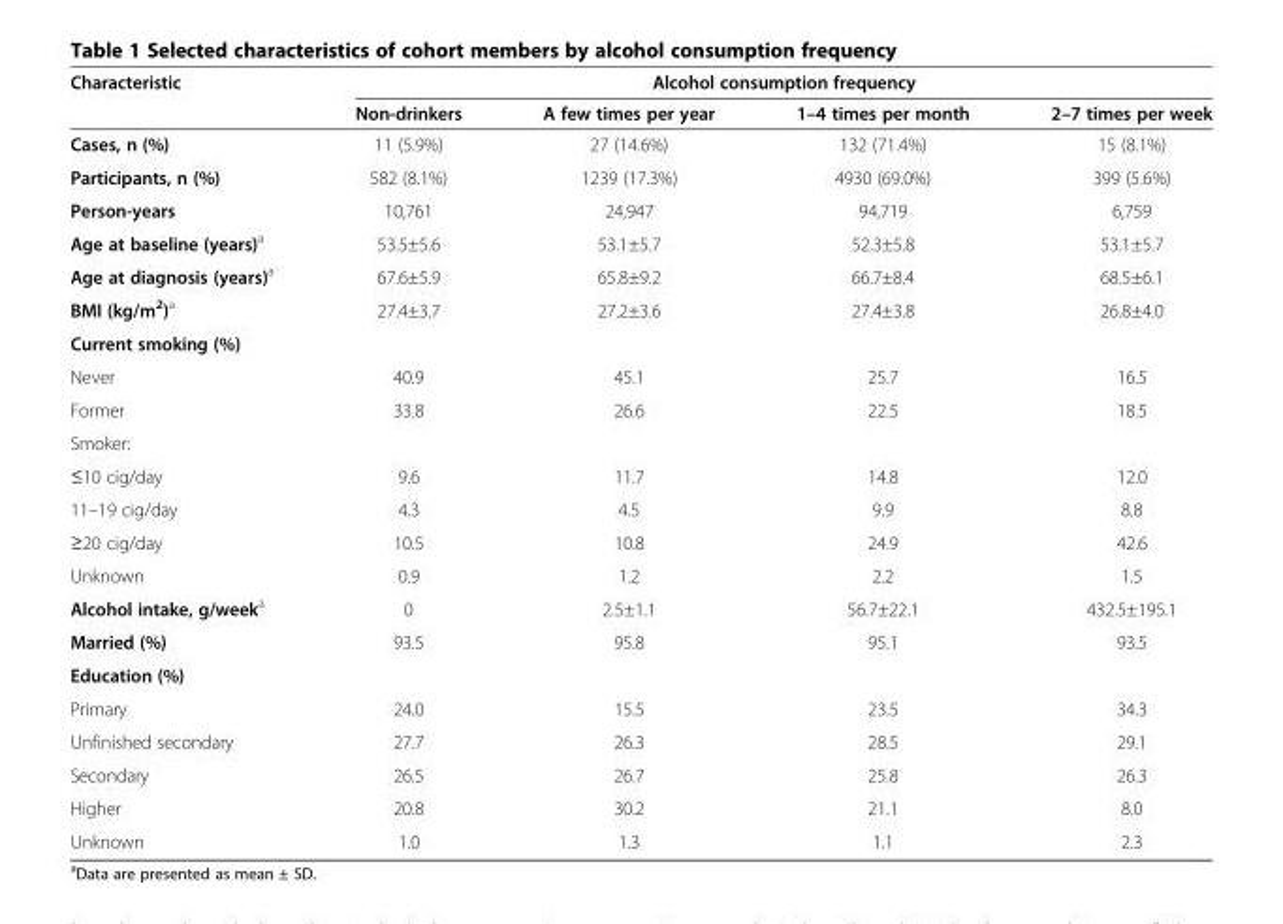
<table><thead><tr><td rowspan="2">Characteristic</td><td colspan="4">Alcohol consumption frequency</td></tr><tr><td>Non-drinkers</td><td>A few times per year</td><td>1–4 times per month</td><td>2–7 times per week</td></tr></thead><tbody><tr><td>Cases, n (%)</td><td>11 (5.9%)</td><td>27 (14.6%)</td><td>132 (71.4%)</td><td>15 (8.1%)</td></tr><tr><td>Participants, n (%)</td><td>582 (8.1%)</td><td>1239 (17.3%)</td><td>4930 (69.0%)</td><td>399 (5.6%)</td></tr><tr><td>Person-years</td><td>10,761</td><td>24,947</td><td>94,719</td><td>6,759</td></tr><tr><td>Age at baseline (years)<sup>a</sup></td><td>53.5±5.6</td><td>53.1±5.7</td><td>52.3±5.8</td><td>53.1±5.7</td></tr><tr><td>Age at diagnosis (years)<sup>a</sup></td><td>67.6±5.9</td><td>65.8±9.2</td><td>66.7±8.4</td><td>68.5±6.1</td></tr><tr><td>BMI (kg/m<sup>2</sup>)<sup>a</sup></td><td>27.4±3.7</td><td>27.2±3.6</td><td>27.4±3.8</td><td>26.8±4.0</td></tr><tr><td colspan="5">Current smoking (%)</td></tr><tr><td>Never</td><td>40.9</td><td>45.1</td><td>25.7</td><td>16.5</td></tr><tr><td>Former</td><td>33.8</td><td>26.6</td><td>22.5</td><td>18.5</td></tr><tr><td colspan="5">Smoker:</td></tr><tr><td>≤10 cig/day</td><td>9.6</td><td>11.7</td><td>14.8</td><td>12.0</td></tr><tr><td>11–19 cig/day</td><td>4.3</td><td>4.5</td><td>9.9</td><td>8.8</td></tr><tr><td>≥20 cig/day</td><td>10.5</td><td>10.8</td><td>24.9</td><td>42.6</td></tr><tr><td>Unknown</td><td>0.9</td><td>1.2</td><td>2.2</td><td>1.5</td></tr><tr><td>Alcohol intake, g/week<sup>a</sup></td><td>0</td><td>2.5±1.1</td><td>56.7±22.1</td><td>432.5±195.1</td></tr><tr><td>Married (%)</td><td>93.5</td><td>95.8</td><td>95.1</td><td>93.5</td></tr><tr><td colspan="5">Education (%)</td></tr><tr><td>Primary</td><td>24.0</td><td>15.5</td><td>23.5</td><td>34.3</td></tr><tr><td>Unfinished secondary</td><td>27.7</td><td>26.3</td><td>28.5</td><td>29.1</td></tr><tr><td>Secondary</td><td>26.5</td><td>26.7</td><td>25.8</td><td>26.3</td></tr><tr><td>Higher</td><td>20.8</td><td>30.2</td><td>21.1</td><td>8.0</td></tr><tr><td>Unknown</td><td>1.0</td><td>1.3</td><td>1.1</td><td>2.3</td></tr></tbody></table>